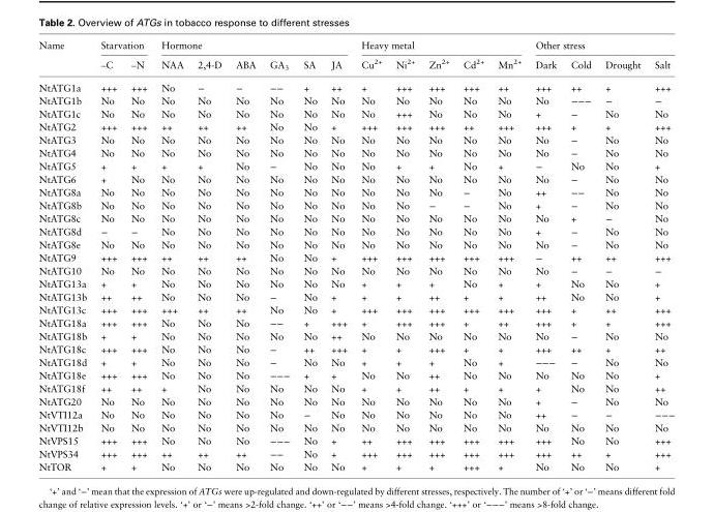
<table><thead><tr><td rowspan="2">Name</td><td colspan="2">Starvation</td><td colspan="6">Hormone</td><td colspan="5">Heavy metal</td><td colspan="4">Other stress</td></tr><tr><td>–C</td><td>–N</td><td>NAA</td><td>2,4-D</td><td>ABA</td><td>GA<sub>3</sub></td><td>SA</td><td>JA</td><td>Cu<sup>2+</sup></td><td>Ni<sup>2+</sup></td><td>Zn<sup>2+</sup></td><td>Cd<sup>2+</sup></td><td>Mn<sup>2+</sup></td><td>Dark</td><td>Cold</td><td>Drought</td><td>Salt</td></tr></thead><tbody><tr><td>NtATG1a</td><td>+++</td><td>+++</td><td>No</td><td>−</td><td>−</td><td>−−</td><td>+</td><td>++</td><td>+</td><td>+++</td><td>+++</td><td>+++</td><td>++</td><td>+++</td><td>++</td><td>+</td><td>+++</td></tr><tr><td>NtATG1b</td><td>No</td><td>No</td><td>No</td><td>No</td><td>No</td><td>No</td><td>No</td><td>No</td><td>No</td><td>No</td><td>No</td><td>No</td><td>No</td><td>No</td><td>−−−</td><td>−</td><td>−</td></tr><tr><td>NtATG1c</td><td>No</td><td>No</td><td>No</td><td>No</td><td>No</td><td>No</td><td>No</td><td>No</td><td>No</td><td>+++</td><td>No</td><td>No</td><td>No</td><td>+</td><td>−</td><td>No</td><td>No</td></tr><tr><td>NtATG2</td><td>+++</td><td>+++</td><td>++</td><td>++</td><td>++</td><td>No</td><td>No</td><td>+</td><td>+++</td><td>+++</td><td>+++</td><td>++</td><td>+++</td><td>+++</td><td>+</td><td>+</td><td>+++</td></tr><tr><td>NtATG3</td><td>No</td><td>No</td><td>No</td><td>No</td><td>No</td><td>No</td><td>No</td><td>No</td><td>No</td><td>No</td><td>No</td><td>No</td><td>No</td><td>No</td><td>−</td><td>No</td><td>No</td></tr><tr><td>NtATG4</td><td>No</td><td>No</td><td>No</td><td>No</td><td>No</td><td>No</td><td>No</td><td>No</td><td>No</td><td>No</td><td>No</td><td>No</td><td>No</td><td>No</td><td>−</td><td>No</td><td>No</td></tr><tr><td>NtATG5</td><td>+</td><td>+</td><td>+</td><td>+</td><td>No</td><td>−</td><td>No</td><td>No</td><td>No</td><td>+</td><td>+</td><td>No</td><td>+</td><td>−</td><td>No</td><td>No</td><td>+</td></tr><tr><td>NtATG6</td><td>+</td><td>No</td><td>No</td><td>No</td><td>No</td><td>No</td><td>No</td><td>No</td><td>No</td><td>No</td><td>No</td><td>No</td><td>No</td><td>No</td><td>−</td><td>No</td><td>No</td></tr><tr><td>NtATG8a</td><td>No</td><td>No</td><td>No</td><td>No</td><td>No</td><td>No</td><td>No</td><td>No</td><td>No</td><td>No</td><td>No</td><td>−</td><td>No</td><td>++</td><td>−−</td><td>No</td><td>No</td></tr><tr><td>NtATG8b</td><td>No</td><td>No</td><td>No</td><td>No</td><td>No</td><td>No</td><td>No</td><td>No</td><td>No</td><td>No</td><td>−</td><td>−</td><td>No</td><td>+</td><td>−</td><td>No</td><td>No</td></tr><tr><td>NtATG8c</td><td>No</td><td>No</td><td>No</td><td>No</td><td>No</td><td>No</td><td>No</td><td>No</td><td>No</td><td>No</td><td>No</td><td>No</td><td>No</td><td>No</td><td>+</td><td>−</td><td>No</td></tr><tr><td>NtATG8d</td><td>−</td><td>−</td><td>No</td><td>No</td><td>No</td><td>No</td><td>No</td><td>No</td><td>No</td><td>No</td><td>No</td><td>No</td><td>No</td><td>+</td><td>−</td><td>No</td><td>No</td></tr><tr><td>NtATG8e</td><td>No</td><td>No</td><td>No</td><td>No</td><td>No</td><td>No</td><td>No</td><td>No</td><td>No</td><td>No</td><td>No</td><td>No</td><td>No</td><td>No</td><td>−</td><td>No</td><td>No</td></tr><tr><td>NtATG9</td><td>+++</td><td>+++</td><td>++</td><td>++</td><td>++</td><td>No</td><td>No</td><td>+</td><td>+++</td><td>+++</td><td>+++</td><td>+++</td><td>+++</td><td>−</td><td>++</td><td>++</td><td>+++</td></tr><tr><td>NtATG10</td><td>No</td><td>No</td><td>No</td><td>No</td><td>No</td><td>No</td><td>No</td><td>No</td><td>No</td><td>No</td><td>No</td><td>No</td><td>No</td><td>No</td><td>−</td><td>−</td><td>−</td></tr><tr><td>NtATG13a</td><td>+</td><td>+</td><td>No</td><td>No</td><td>No</td><td>No</td><td>No</td><td>No</td><td>+</td><td>+</td><td>+</td><td>No</td><td>+</td><td>+</td><td>No</td><td>No</td><td>+</td></tr><tr><td>NtATG13b</td><td>++</td><td>++</td><td>No</td><td>No</td><td>No</td><td>−</td><td>No</td><td>+</td><td>+</td><td>+</td><td>++</td><td>+</td><td>+</td><td>++</td><td>No</td><td>No</td><td>+</td></tr><tr><td>NtATG13c</td><td>+++</td><td>+++</td><td>+++</td><td>++</td><td>++</td><td>No</td><td>No</td><td>+</td><td>+++</td><td>+++</td><td>+++</td><td>+++</td><td>+++</td><td>+++</td><td>+</td><td>++</td><td>+++</td></tr><tr><td>NtATG18a</td><td>+++</td><td>+++</td><td>No</td><td>No</td><td>No</td><td>−−</td><td>+</td><td>+++</td><td>+</td><td>+++</td><td>+++</td><td>+</td><td>++</td><td>+++</td><td>+</td><td>+</td><td>+++</td></tr><tr><td>NtATG18b</td><td>+</td><td>+</td><td>No</td><td>No</td><td>No</td><td>No</td><td>No</td><td>++</td><td>No</td><td>No</td><td>No</td><td>No</td><td>No</td><td>No</td><td>−</td><td>No</td><td>No</td></tr><tr><td>NtATG18c</td><td>+++</td><td>+++</td><td>No</td><td>No</td><td>No</td><td>−</td><td>++</td><td>+++</td><td>+</td><td>+</td><td>+++</td><td>+</td><td>+</td><td>+++</td><td>++</td><td>+</td><td>++</td></tr><tr><td>NtATG18d</td><td>+</td><td>+</td><td>No</td><td>No</td><td>No</td><td>−</td><td>No</td><td>No</td><td>+</td><td>+</td><td>+</td><td>No</td><td>+</td><td>−−−</td><td>−</td><td>No</td><td>No</td></tr><tr><td>NtATG18e</td><td>+++</td><td>+++</td><td>No</td><td>No</td><td>No</td><td>−−−</td><td>+</td><td>+</td><td>No</td><td>No</td><td>++</td><td>No</td><td>No</td><td>No</td><td>No</td><td>No</td><td>+</td></tr><tr><td>NtATG18f</td><td>++</td><td>++</td><td>+</td><td>No</td><td>No</td><td>No</td><td>No</td><td>No</td><td>+</td><td>+</td><td>++</td><td>+</td><td>+</td><td>+</td><td>No</td><td>No</td><td>++</td></tr><tr><td>NtATG20</td><td>No</td><td>No</td><td>No</td><td>No</td><td>No</td><td>No</td><td>No</td><td>No</td><td>No</td><td>No</td><td>No</td><td>No</td><td>No</td><td>+</td><td>−</td><td>No</td><td>No</td></tr><tr><td>NtVTI12a</td><td>No</td><td>No</td><td>No</td><td>No</td><td>No</td><td>No</td><td>−</td><td>No</td><td>No</td><td>No</td><td>No</td><td>No</td><td>No</td><td>++</td><td>−</td><td>−</td><td>−−−</td></tr><tr><td>NtVTI12b</td><td>No</td><td>No</td><td>No</td><td>No</td><td>No</td><td>No</td><td>No</td><td>No</td><td>No</td><td>No</td><td>No</td><td>No</td><td>No</td><td>No</td><td>No</td><td>No</td><td>No</td></tr><tr><td>NtVPS15</td><td>+++</td><td>+++</td><td>No</td><td>No</td><td>No</td><td>−−−</td><td>No</td><td>+</td><td>++</td><td>+++</td><td>+++</td><td>+++</td><td>+++</td><td>+++</td><td>No</td><td>No</td><td>+++</td></tr><tr><td>NtVPS34</td><td>+++</td><td>+++</td><td>++</td><td>++</td><td>++</td><td>−−</td><td>No</td><td>+</td><td>+++</td><td>+++</td><td>+++</td><td>+++</td><td>+++</td><td>+++</td><td>++</td><td>+</td><td>+++</td></tr><tr><td>NtTOR</td><td>+</td><td>+</td><td>No</td><td>No</td><td>No</td><td>No</td><td>No</td><td>No</td><td>+</td><td>+</td><td>+</td><td>+++</td><td>+</td><td>No</td><td>No</td><td>No</td><td>+</td></tr></tbody></table>